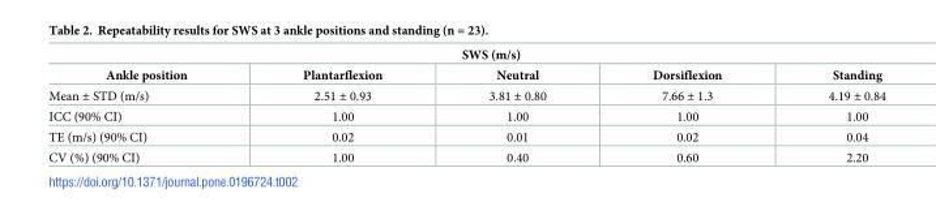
<table><thead><tr><td colspan="5">SWS (m/s)</td></tr><tr><td>Ankle position</td><td>Plantarflexion</td><td>Neutral</td><td>Dorsiflexion</td><td>Standing</td></tr></thead><tbody><tr><td>Mean ± STD (m/s)</td><td>2.51 ± 0.93</td><td>3.81 ± 0.80</td><td>7.66 ± 1.3</td><td>4.19 ± 0.84</td></tr><tr><td>ICC (90% CI)</td><td>1.00</td><td>1.00</td><td>1.00</td><td>1.00</td></tr><tr><td>TE (m/s) (90% CI)</td><td>0.02</td><td>0.01</td><td>0.02</td><td>0.04</td></tr><tr><td>CV (%) (90% CI)</td><td>1.00</td><td>0.40</td><td>0.60</td><td>2.20</td></tr></tbody></table>